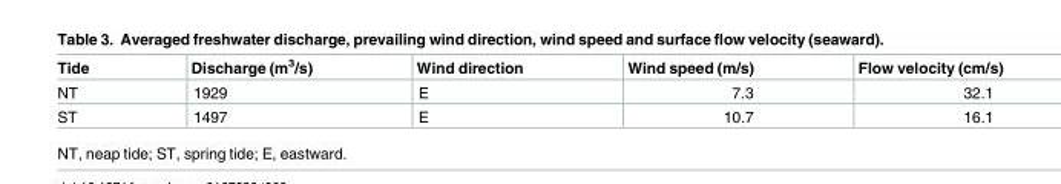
<table><thead><tr><td>Tide</td><td>Discharge (m<sup>3</sup>/s)</td><td>Wind direction</td><td>Wind speed (m/s)</td><td>Flow velocity (cm/s)</td></tr></thead><tbody><tr><td>NT</td><td>1929</td><td>E</td><td>7.3</td><td>32.1</td></tr><tr><td>ST</td><td>1497</td><td>E</td><td>10.7</td><td>16.1</td></tr></tbody></table>